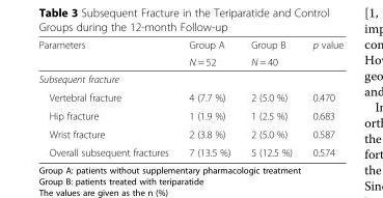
<table><thead><tr><td rowspan="2">Parameters</td><td rowspan="2">Group A N = 52</td><td rowspan="2">Group B N = 40</td><td rowspan="2">p value</td></tr><tr></tr></thead><tbody><tr><td colspan="4">Subsequent fracture</td></tr><tr><td>Vertebral fracture</td><td>4 (7.7 %)</td><td>2 (5.0 %)</td><td>0.470</td></tr><tr><td>Hip fracture</td><td>1 (1.9 %)</td><td>1 (2.5 %)</td><td>0.683</td></tr><tr><td>Wrist fracture</td><td>2 (3.8 %)</td><td>2 (5.0 %)</td><td>0.587</td></tr><tr><td>Overall subsequent fractures</td><td>7 (13.5 %)</td><td>5 (12.5 %)</td><td>0.574</td></tr></tbody></table>